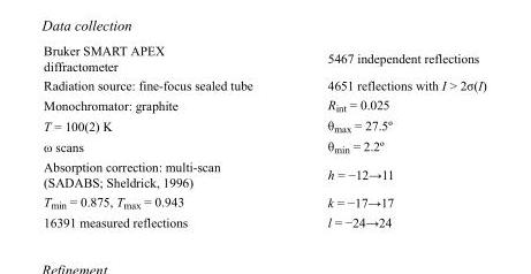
<table><tbody><tr><td>Bruker SMART APEX diffractometer</td><td>5467 independent reflections</td></tr><tr><td>Radiation source: fine-focus sealed tube</td><td>4651 reflections with I &gt; 2σ(I)</td></tr><tr><td>Monochromator: graphite</td><td>R<sub>int</sub> = 0.025</td></tr><tr><td>T = 100(2) K</td><td>θ<sub>max</sub> = 27.5º</td></tr><tr><td>ω scans</td><td>θ<sub>min</sub> = 2.2º</td></tr><tr><td>Absorption correction: multi-scan (SADABS; Sheldrick, 1996)</td><td>h = −12→11</td></tr><tr><td>T<sub>min</sub> = 0.875, T<sub>max</sub> = 0.943</td><td>k = −17→17</td></tr><tr><td>16391 measured reflections</td><td>l = −24→24</td></tr></tbody></table>